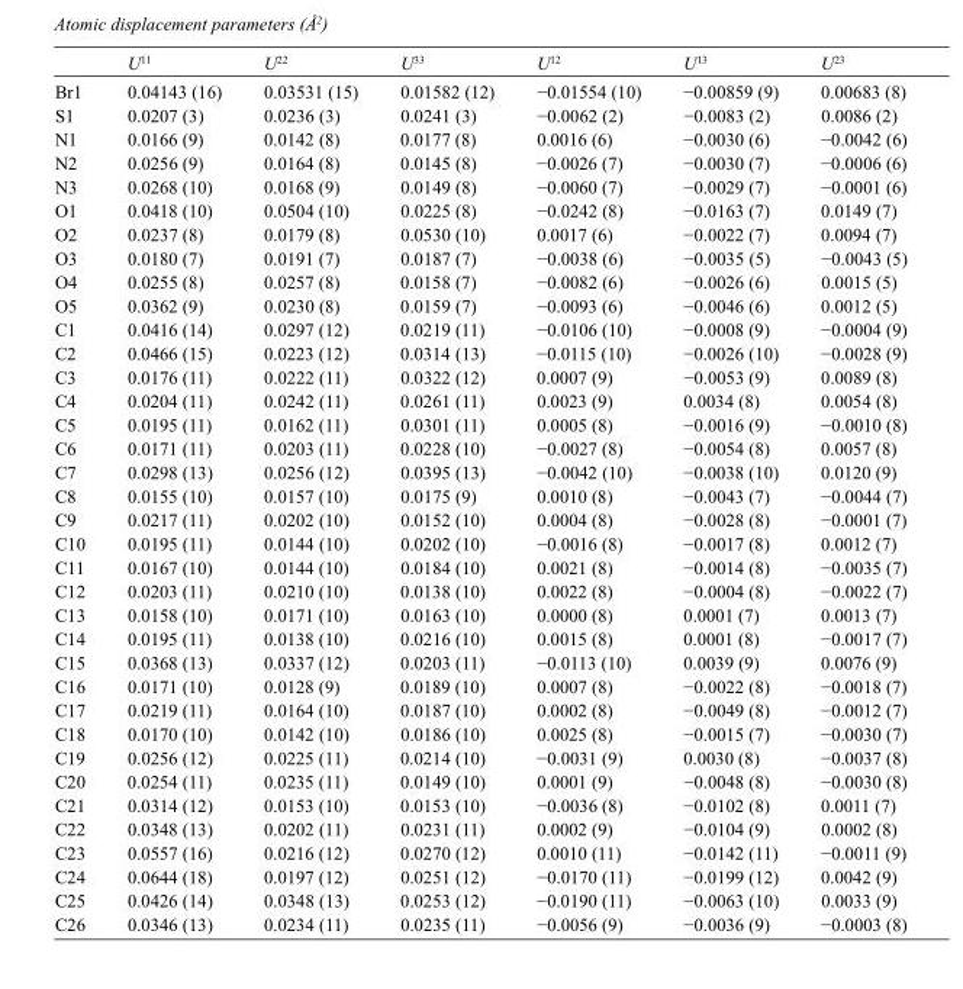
<table><thead><tr><td></td><td>U<sup>11</sup></td><td>U<sup>22</sup></td><td>U<sup>33</sup></td><td>U<sup>12</sup></td><td>U<sup>13</sup></td><td>U<sup>23</sup></td></tr></thead><tbody><tr><td>Br1</td><td>0.04143 (16)</td><td>0.03531 (15)</td><td>0.01582 (12)</td><td>−0.01554 (10)</td><td>−0.00859 (9)</td><td>0.00683 (8)</td></tr><tr><td>S1</td><td>0.0207 (3)</td><td>0.0236 (3)</td><td>0.0241 (3)</td><td>−0.0062 (2)</td><td>−0.0083 (2)</td><td>0.0086 (2)</td></tr><tr><td>N1</td><td>0.0166 (9)</td><td>0.0142 (8)</td><td>0.0177 (8)</td><td>0.0016 (6)</td><td>−0.0030 (6)</td><td>−0.0042 (6)</td></tr><tr><td>N2</td><td>0.0256 (9)</td><td>0.0164 (8)</td><td>0.0145 (8)</td><td>−0.0026 (7)</td><td>−0.0030 (7)</td><td>−0.0006 (6)</td></tr><tr><td>N3</td><td>0.0268 (10)</td><td>0.0168 (9)</td><td>0.0149 (8)</td><td>−0.0060 (7)</td><td>−0.0029 (7)</td><td>−0.0001 (6)</td></tr><tr><td>O1</td><td>0.0418 (10)</td><td>0.0504 (10)</td><td>0.0225 (8)</td><td>−0.0242 (8)</td><td>−0.0163 (7)</td><td>0.0149 (7)</td></tr><tr><td>O2</td><td>0.0237 (8)</td><td>0.0179 (8)</td><td>0.0530 (10)</td><td>0.0017 (6)</td><td>−0.0022 (7)</td><td>0.0094 (7)</td></tr><tr><td>O3</td><td>0.0180 (7)</td><td>0.0191 (7)</td><td>0.0187 (7)</td><td>−0.0038 (6)</td><td>−0.0035 (5)</td><td>−0.0043 (5)</td></tr><tr><td>O4</td><td>0.0255 (8)</td><td>0.0257 (8)</td><td>0.0158 (7)</td><td>−0.0082 (6)</td><td>−0.0026 (6)</td><td>0.0015 (5)</td></tr><tr><td>O5</td><td>0.0362 (9)</td><td>0.0230 (8)</td><td>0.0159 (7)</td><td>−0.0093 (6)</td><td>−0.0046 (6)</td><td>0.0012 (5)</td></tr><tr><td>C1</td><td>0.0416 (14)</td><td>0.0297 (12)</td><td>0.0219 (11)</td><td>−0.0106 (10)</td><td>−0.0008 (9)</td><td>−0.0004 (9)</td></tr><tr><td>C2</td><td>0.0466 (15)</td><td>0.0223 (12)</td><td>0.0314 (13)</td><td>−0.0115 (10)</td><td>−0.0026 (10)</td><td>−0.0028 (9)</td></tr><tr><td>C3</td><td>0.0176 (11)</td><td>0.0222 (11)</td><td>0.0322 (12)</td><td>0.0007 (9)</td><td>−0.0053 (9)</td><td>0.0089 (8)</td></tr><tr><td>C4</td><td>0.0204 (11)</td><td>0.0242 (11)</td><td>0.0261 (11)</td><td>0.0023 (9)</td><td>0.0034 (8)</td><td>0.0054 (8)</td></tr><tr><td>C5</td><td>0.0195 (11)</td><td>0.0162 (11)</td><td>0.0301 (11)</td><td>0.0005 (8)</td><td>−0.0016 (9)</td><td>−0.0010 (8)</td></tr><tr><td>C6</td><td>0.0171 (11)</td><td>0.0203 (11)</td><td>0.0228 (10)</td><td>−0.0027 (8)</td><td>−0.0054 (8)</td><td>0.0057 (8)</td></tr><tr><td>C7</td><td>0.0298 (13)</td><td>0.0256 (12)</td><td>0.0395 (13)</td><td>−0.0042 (10)</td><td>−0.0038 (10)</td><td>0.0120 (9)</td></tr><tr><td>C8</td><td>0.0155 (10)</td><td>0.0157 (10)</td><td>0.0175 (9)</td><td>0.0010 (8)</td><td>−0.0043 (7)</td><td>−0.0044 (7)</td></tr><tr><td>C9</td><td>0.0217 (11)</td><td>0.0202 (10)</td><td>0.0152 (10)</td><td>0.0004 (8)</td><td>−0.0028 (8)</td><td>−0.0001 (7)</td></tr><tr><td>C10</td><td>0.0195 (11)</td><td>0.0144 (10)</td><td>0.0202 (10)</td><td>−0.0016 (8)</td><td>−0.0017 (8)</td><td>0.0012 (7)</td></tr><tr><td>C11</td><td>0.0167 (10)</td><td>0.0144 (10)</td><td>0.0184 (10)</td><td>0.0021 (8)</td><td>−0.0014 (8)</td><td>−0.0035 (7)</td></tr><tr><td>C12</td><td>0.0203 (11)</td><td>0.0210 (10)</td><td>0.0138 (10)</td><td>0.0022 (8)</td><td>−0.0004 (8)</td><td>−0.0022 (7)</td></tr><tr><td>C13</td><td>0.0158 (10)</td><td>0.0171 (10)</td><td>0.0163 (10)</td><td>0.0000 (8)</td><td>0.0001 (7)</td><td>0.0013 (7)</td></tr><tr><td>C14</td><td>0.0195 (11)</td><td>0.0138 (10)</td><td>0.0216 (10)</td><td>0.0015 (8)</td><td>0.0001 (8)</td><td>−0.0017 (7)</td></tr><tr><td>C15</td><td>0.0368 (13)</td><td>0.0337 (12)</td><td>0.0203 (11)</td><td>−0.0113 (10)</td><td>0.0039 (9)</td><td>0.0076 (9)</td></tr><tr><td>C16</td><td>0.0171 (10)</td><td>0.0128 (9)</td><td>0.0189 (10)</td><td>0.0007 (8)</td><td>−0.0022 (8)</td><td>−0.0018 (7)</td></tr><tr><td>C17</td><td>0.0219 (11)</td><td>0.0164 (10)</td><td>0.0187 (10)</td><td>0.0002 (8)</td><td>−0.0049 (8)</td><td>−0.0012 (7)</td></tr><tr><td>C18</td><td>0.0170 (10)</td><td>0.0142 (10)</td><td>0.0186 (10)</td><td>0.0025 (8)</td><td>−0.0015 (7)</td><td>−0.0030 (7)</td></tr><tr><td>C19</td><td>0.0256 (12)</td><td>0.0225 (11)</td><td>0.0214 (10)</td><td>−0.0031 (9)</td><td>0.0030 (8)</td><td>−0.0037 (8)</td></tr><tr><td>C20</td><td>0.0254 (11)</td><td>0.0235 (11)</td><td>0.0149 (10)</td><td>0.0001 (9)</td><td>−0.0048 (8)</td><td>−0.0030 (8)</td></tr><tr><td>C21</td><td>0.0314 (12)</td><td>0.0153 (10)</td><td>0.0153 (10)</td><td>−0.0036 (8)</td><td>−0.0102 (8)</td><td>0.0011 (7)</td></tr><tr><td>C22</td><td>0.0348 (13)</td><td>0.0202 (11)</td><td>0.0231 (11)</td><td>0.0002 (9)</td><td>−0.0104 (9)</td><td>0.0002 (8)</td></tr><tr><td>C23</td><td>0.0557 (16)</td><td>0.0216 (12)</td><td>0.0270 (12)</td><td>0.0010 (11)</td><td>−0.0142 (11)</td><td>−0.0011 (9)</td></tr><tr><td>C24</td><td>0.0644 (18)</td><td>0.0197 (12)</td><td>0.0251 (12)</td><td>−0.0170 (11)</td><td>−0.0199 (12)</td><td>0.0042 (9)</td></tr><tr><td>C25</td><td>0.0426 (14)</td><td>0.0348 (13)</td><td>0.0253 (12)</td><td>−0.0190 (11)</td><td>−0.0063 (10)</td><td>0.0033 (9)</td></tr><tr><td>C26</td><td>0.0346 (13)</td><td>0.0234 (11)</td><td>0.0235 (11)</td><td>−0.0056 (9)</td><td>−0.0036 (9)</td><td>−0.0003 (8)</td></tr></tbody></table>